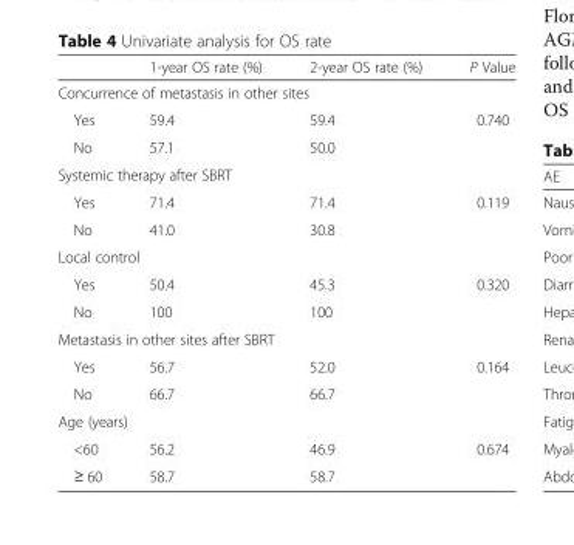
<table><thead><tr><td></td><td>1-year OS rate (%)</td><td>2-year OS rate (%)</td><td>P Value</td></tr></thead><tbody><tr><td colspan="4">Concurrence of metastasis in other sites</td></tr><tr><td>Yes</td><td>59.4</td><td>59.4</td><td>0.740</td></tr><tr><td>No</td><td>57.1</td><td>50.0</td><td></td></tr><tr><td colspan="4">Systemic therapy after SBRT</td></tr><tr><td>Yes</td><td>71.4</td><td>71.4</td><td>0.119</td></tr><tr><td>No</td><td>41.0</td><td>30.8</td><td></td></tr><tr><td colspan="4">Local control</td></tr><tr><td>Yes</td><td>50.4</td><td>45.3</td><td>0.320</td></tr><tr><td>No</td><td>100</td><td>100</td><td></td></tr><tr><td colspan="4">Metastasis in other sites after SBRT</td></tr><tr><td>Yes</td><td>56.7</td><td>52.0</td><td>0.164</td></tr><tr><td>No</td><td>66.7</td><td>66.7</td><td></td></tr><tr><td colspan="4">Age (years)</td></tr><tr><td>&lt;60</td><td>56.2</td><td>46.9</td><td>0.674</td></tr><tr><td>≥ 60</td><td>58.7</td><td>58.7</td><td></td></tr></tbody></table>